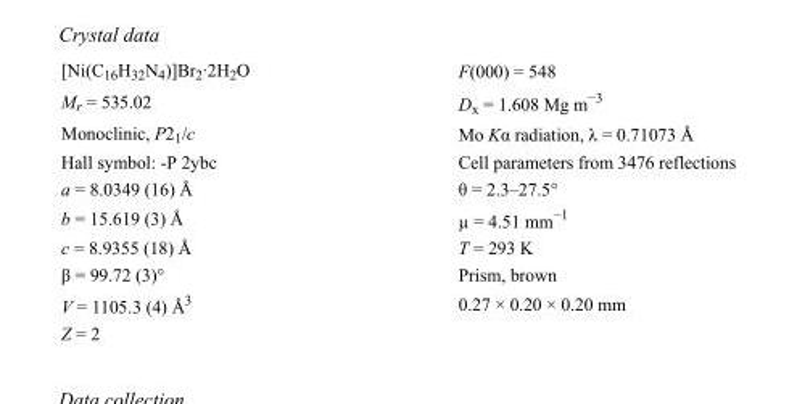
<table><tbody><tr><td>[Ni(C<sub>16</sub>H<sub>32</sub>N<sub>4</sub>)]Br<sub>2</sub>·2H<sub>2</sub>O</td><td>F(000) = 548</td></tr><tr><td>M<sub>r</sub> = 535.02</td><td>D<sub>x</sub> = 1.608 Mg m<sup>−3</sup></td></tr><tr><td>Monoclinic, P2<sub>1</sub>/c</td><td>Mo Kα radiation, λ = 0.71073 Å</td></tr><tr><td>Hall symbol: -P 2ybc</td><td>Cell parameters from 3476 reflections</td></tr><tr><td>a = 8.0349 (16) Å</td><td>θ = 2.3–27.5°</td></tr><tr><td>b = 15.619 (3) Å</td><td>µ = 4.51 mm<sup>−1</sup></td></tr><tr><td>c = 8.9355 (18) Å</td><td>T = 293 K</td></tr><tr><td>β = 99.72 (3)°</td><td>Prism, brown</td></tr><tr><td>V = 1105.3 (4) Å<sup>3</sup></td><td>0.27 × 0.20 × 0.20 mm</td></tr><tr><td>Z = 2</td><td></td></tr></tbody></table>